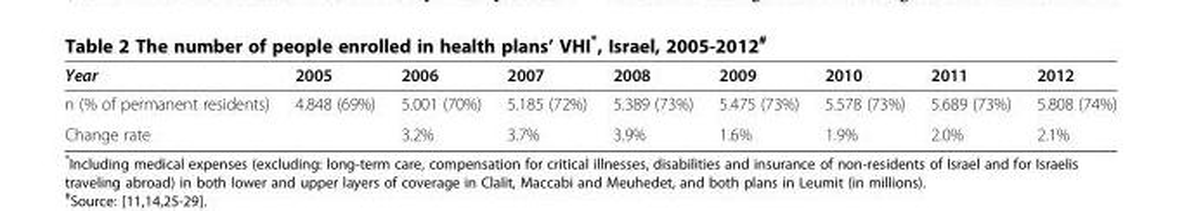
<table><thead><tr><td>Year</td><td>2005</td><td>2006</td><td>2007</td><td>2008</td><td>2009</td><td>2010</td><td>2011</td><td>2012</td></tr></thead><tbody><tr><td>n (% of permanent residents)</td><td>4.848 (69%)</td><td>5.001 (70%)</td><td>5.185 (72%)</td><td>5.389 (73%)</td><td>5.475 (73%)</td><td>5.578 (73%)</td><td>5.689 (73%)</td><td>5.808 (74%)</td></tr><tr><td>Change rate</td><td></td><td>3.2%</td><td>3.7%</td><td>3.9%</td><td>1.6%</td><td>1.9%</td><td>2.0%</td><td>2.1%</td></tr></tbody></table>